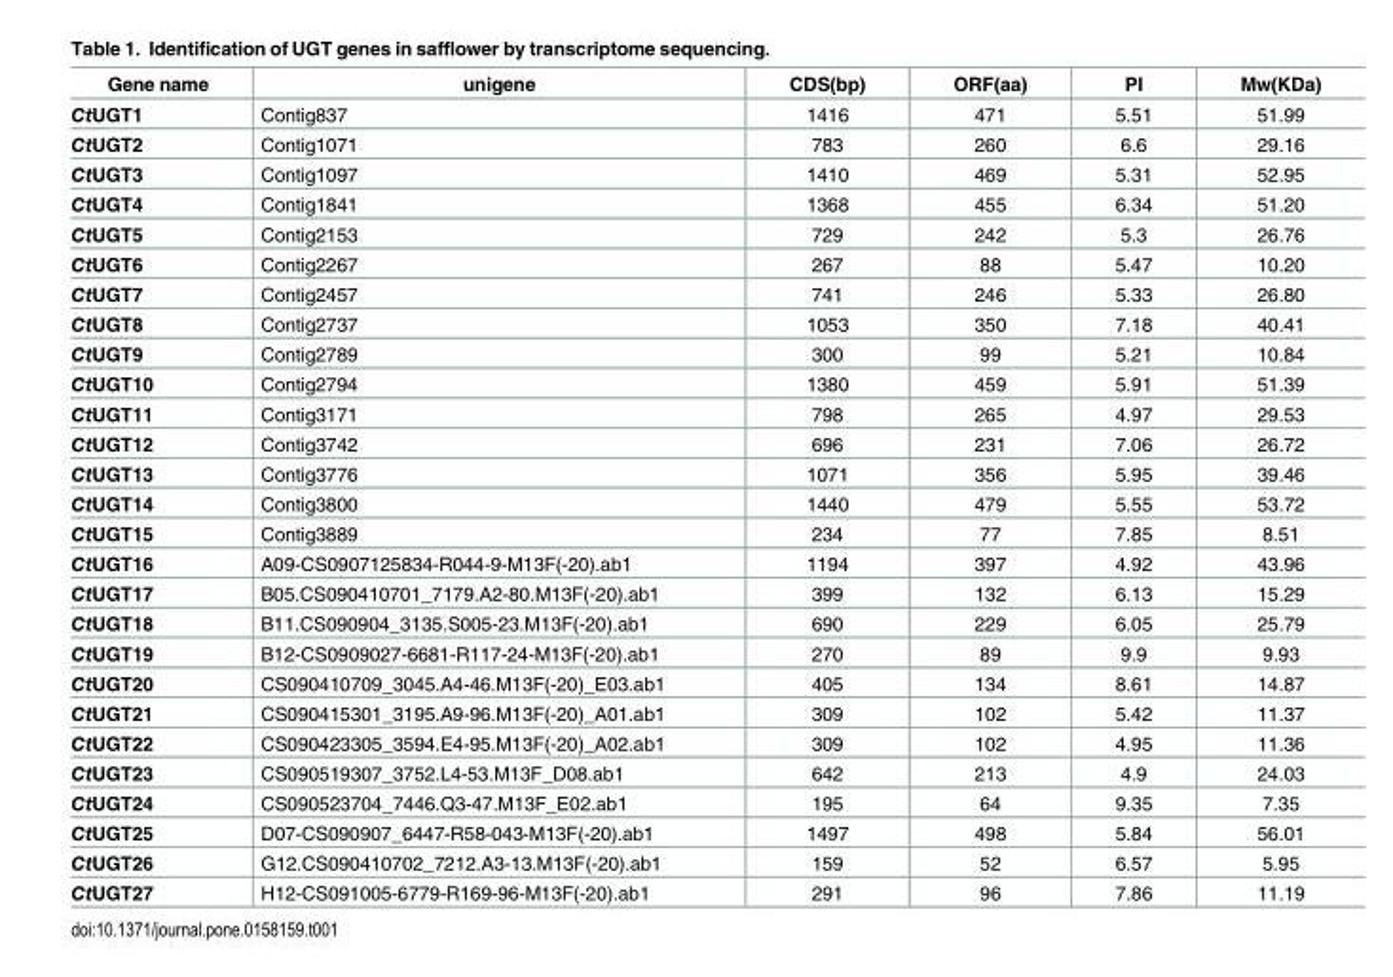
<table><thead><tr><td>Gene name</td><td>unigene</td><td>CDS(bp)</td><td>ORF(aa)</td><td>PI</td><td>Mw(KDa)</td></tr></thead><tbody><tr><td>CtUGT1</td><td>Contig837</td><td>1416</td><td>471</td><td>5.51</td><td>51.99</td></tr><tr><td>CtUGT2</td><td>Contig1071</td><td>783</td><td>260</td><td>6.6</td><td>29.16</td></tr><tr><td>CtUGT3</td><td>Contig1097</td><td>1410</td><td>469</td><td>5.31</td><td>52.95</td></tr><tr><td>CtUGT4</td><td>Contig1841</td><td>1368</td><td>455</td><td>6.34</td><td>51.20</td></tr><tr><td>CtUGT5</td><td>Contig2153</td><td>729</td><td>242</td><td>5.3</td><td>26.76</td></tr><tr><td>CtUGT6</td><td>Contig2267</td><td>267</td><td>88</td><td>5.47</td><td>10.20</td></tr><tr><td>CtUGT7</td><td>Contig2457</td><td>741</td><td>246</td><td>5.33</td><td>26.80</td></tr><tr><td>CtUGT8</td><td>Contig2737</td><td>1053</td><td>350</td><td>7.18</td><td>40.41</td></tr><tr><td>CtUGT9</td><td>Contig2789</td><td>300</td><td>99</td><td>5.21</td><td>10.84</td></tr><tr><td>CtUGT10</td><td>Contig2794</td><td>1380</td><td>459</td><td>5.91</td><td>51.39</td></tr><tr><td>CtUGT11</td><td>Contig3171</td><td>798</td><td>265</td><td>4.97</td><td>29.53</td></tr><tr><td>CtUGT12</td><td>Contig3742</td><td>696</td><td>231</td><td>7.06</td><td>26.72</td></tr><tr><td>CtUGT13</td><td>Contig3776</td><td>1071</td><td>356</td><td>5.95</td><td>39.46</td></tr><tr><td>CtUGT14</td><td>Contig3800</td><td>1440</td><td>479</td><td>5.55</td><td>53.72</td></tr><tr><td>CtUGT15</td><td>Contig3889</td><td>234</td><td>77</td><td>7.85</td><td>8.51</td></tr><tr><td>CtUGT16</td><td>A09-CS0907125834-R044-9-M13F(-20).ab1</td><td>1194</td><td>397</td><td>4.92</td><td>43.96</td></tr><tr><td>CtUGT17</td><td>B05.CS090410701_7179.A2-80.M13F(-20).ab1</td><td>399</td><td>132</td><td>6.13</td><td>15.29</td></tr><tr><td>CtUGT18</td><td>B11.CS090904_3135.S005-23.M13F(-20).ab1</td><td>690</td><td>229</td><td>6.05</td><td>25.79</td></tr><tr><td>CtUGT19</td><td>B12-CS0909027-6681-R117-24-M13F(-20).ab1</td><td>270</td><td>89</td><td>9.9</td><td>9.93</td></tr><tr><td>CtUGT20</td><td>CS090410709_3045.A4-46.M13F(-20)_E03.ab1</td><td>405</td><td>134</td><td>8.61</td><td>14.87</td></tr><tr><td>CtUGT21</td><td>CS090415301_3195.A9-96.M13F(-20)_A01.ab1</td><td>309</td><td>102</td><td>5.42</td><td>11.37</td></tr><tr><td>CtUGT22</td><td>CS090423305_3594.E4-95.M13F(-20)_A02.ab1</td><td>309</td><td>102</td><td>4.95</td><td>11.36</td></tr><tr><td>CtUGT23</td><td>CS090519307_3752.L4-53.M13F_D08.ab1</td><td>642</td><td>213</td><td>4.9</td><td>24.03</td></tr><tr><td>CtUGT24</td><td>CS090523704_7446.Q3-47.M13F_E02.ab1</td><td>195</td><td>64</td><td>9.35</td><td>7.35</td></tr><tr><td>CtUGT25</td><td>D07-CS090907_6447-R58-043-M13F(-20).ab1</td><td>1497</td><td>498</td><td>5.84</td><td>56.01</td></tr><tr><td>CtUGT26</td><td>G12.CS090410702_7212.A3-13.M13F(-20).ab1</td><td>159</td><td>52</td><td>6.57</td><td>5.95</td></tr><tr><td>CtUGT27</td><td>H12-CS091005-6779-R169-96-M13F(-20).ab1</td><td>291</td><td>96</td><td>7.86</td><td>11.19</td></tr></tbody></table>